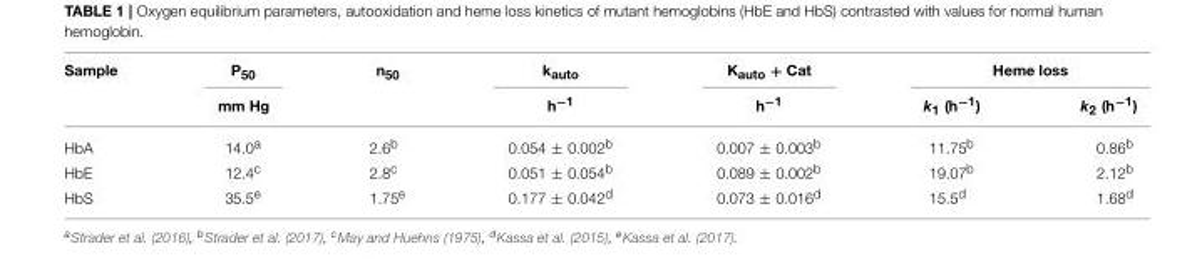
<table><thead><tr><td rowspan="2">Sample</td><td rowspan="2">P<sub>50</sub> mm Hg</td><td rowspan="2">n<sub>50</sub></td><td rowspan="2">k<sub>auto</sub> h<sup>−1</sup></td><td rowspan="2">K<sub>auto</sub> + Cat h<sup>−1</sup></td><td colspan="2">Heme loss</td></tr><tr><td>k<sub>1</sub> (h<sup>−1</sup>)</td><td>k<sub>2</sub> (h<sup>−1</sup>)</td></tr></thead><tbody><tr><td>HbA</td><td>14.0<sup>a</sup></td><td>2.6<sup>b</sup></td><td>0.054 ± 0.002<sup>b</sup></td><td>0.007 ± 0.003<sup>b</sup></td><td>11.75<sup>b</sup></td><td>0.86<sup>b</sup></td></tr><tr><td>HbE</td><td>12.4<sup>c</sup></td><td>2.8<sup>c</sup></td><td>0.051 ± 0.054<sup>b</sup></td><td>0.089 ± 0.002<sup>b</sup></td><td>19.07<sup>b</sup></td><td>2.12<sup>b</sup></td></tr><tr><td>HbS</td><td>35.5<sup>e</sup></td><td>1.75<sup>e</sup></td><td>0.177 ± 0.042<sup>d</sup></td><td>0.073 ± 0.016<sup>d</sup></td><td>15.5<sup>d</sup></td><td>1.68<sup>d</sup></td></tr></tbody></table>